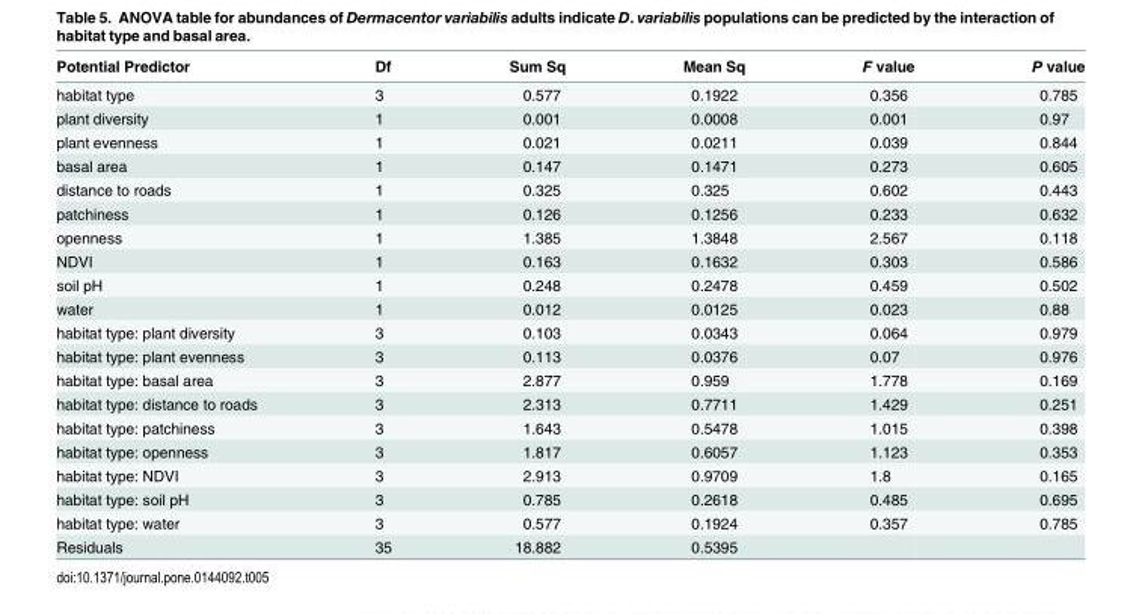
<table><thead><tr><td>Potential Predictor</td><td>Df</td><td>Sum Sq</td><td>Mean Sq</td><td>F value</td><td>P value</td></tr></thead><tbody><tr><td>habitat type</td><td>3</td><td>0.577</td><td>0.1922</td><td>0.356</td><td>0.785</td></tr><tr><td>plant diversity</td><td>1</td><td>0.001</td><td>0.0008</td><td>0.001</td><td>0.97</td></tr><tr><td>plant evenness</td><td>1</td><td>0.021</td><td>0.0211</td><td>0.039</td><td>0.844</td></tr><tr><td>basal area</td><td>1</td><td>0.147</td><td>0.1471</td><td>0.273</td><td>0.605</td></tr><tr><td>distance to roads</td><td>1</td><td>0.325</td><td>0.325</td><td>0.602</td><td>0.443</td></tr><tr><td>patchiness</td><td>1</td><td>0.126</td><td>0.1256</td><td>0.233</td><td>0.632</td></tr><tr><td>openness</td><td>1</td><td>1.385</td><td>1.3848</td><td>2.567</td><td>0.118</td></tr><tr><td>NDVI</td><td>1</td><td>0.163</td><td>0.1632</td><td>0.303</td><td>0.586</td></tr><tr><td>soil pH</td><td>1</td><td>0.248</td><td>0.2478</td><td>0.459</td><td>0.502</td></tr><tr><td>water</td><td>1</td><td>0.012</td><td>0.0125</td><td>0.023</td><td>0.88</td></tr><tr><td>habitat type: plant diversity</td><td>3</td><td>0.103</td><td>0.0343</td><td>0.064</td><td>0.979</td></tr><tr><td>habitat type: plant evenness</td><td>3</td><td>0.113</td><td>0.0376</td><td>0.07</td><td>0.976</td></tr><tr><td>habitat type: basal area</td><td>3</td><td>2.877</td><td>0.959</td><td>1.778</td><td>0.169</td></tr><tr><td>habitat type: distance to roads</td><td>3</td><td>2.313</td><td>0.7711</td><td>1.429</td><td>0.251</td></tr><tr><td>habitat type: patchiness</td><td>3</td><td>1.643</td><td>0.5478</td><td>1.015</td><td>0.398</td></tr><tr><td>habitat type: openness</td><td>3</td><td>1.817</td><td>0.6057</td><td>1.123</td><td>0.353</td></tr><tr><td>habitat type: NDVI</td><td>3</td><td>2.913</td><td>0.9709</td><td>1.8</td><td>0.165</td></tr><tr><td>habitat type: soil pH</td><td>3</td><td>0.785</td><td>0.2618</td><td>0.485</td><td>0.695</td></tr><tr><td>habitat type: water</td><td>3</td><td>0.577</td><td>0.1924</td><td>0.357</td><td>0.785</td></tr><tr><td>Residuals</td><td>35</td><td>18.882</td><td>0.5395</td><td></td><td></td></tr></tbody></table>